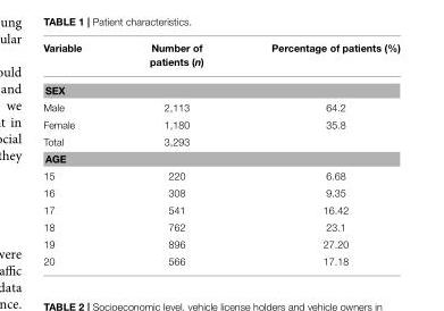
<table><thead><tr><td>Variable</td><td>Number of patients (n)</td><td>Percentage of patients (%)</td></tr></thead><tbody><tr><td colspan="3">SEX</td></tr><tr><td>Male</td><td>2,113</td><td>64.2</td></tr><tr><td>Female</td><td>1,180</td><td>35.8</td></tr><tr><td>Total</td><td>3,293</td><td></td></tr><tr><td colspan="3">AGE</td></tr><tr><td>15</td><td>220</td><td>6.68</td></tr><tr><td>16</td><td>308</td><td>9.35</td></tr><tr><td>17</td><td>541</td><td>16.42</td></tr><tr><td>18</td><td>762</td><td>23.1</td></tr><tr><td>19</td><td>896</td><td>27.20</td></tr><tr><td>20</td><td>566</td><td>17.18</td></tr></tbody></table>